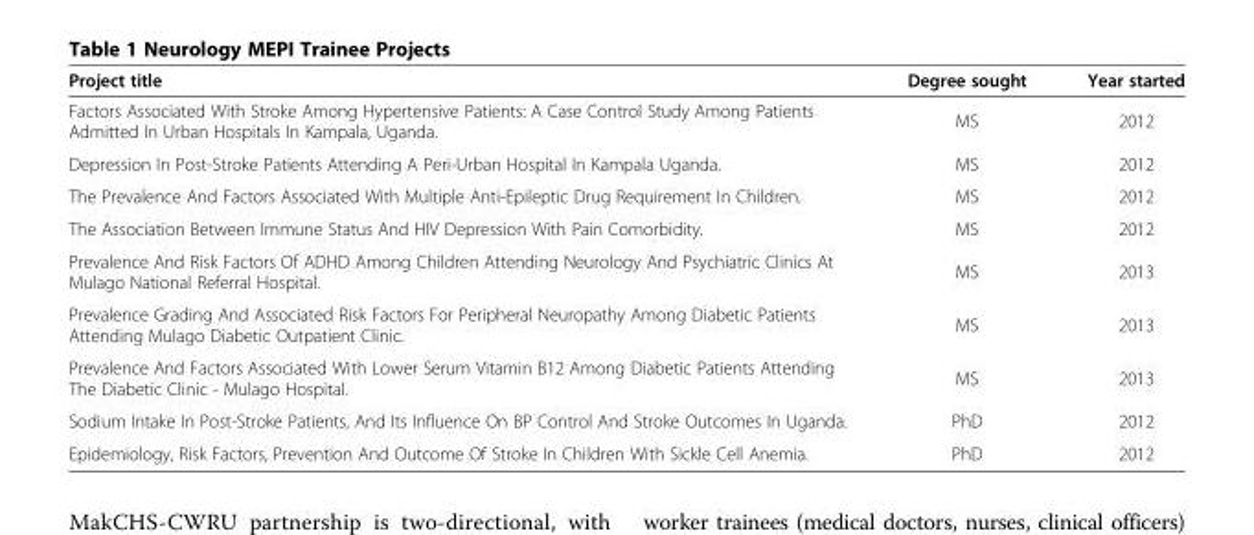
<table><thead><tr><td>Project title</td><td>Degree sought</td><td>Year started</td></tr></thead><tbody><tr><td>Factors Associated With Stroke Among Hypertensive Patients: A Case Control Study Among Patients Admitted In Urban Hospitals In Kampala, Uganda.</td><td>MS</td><td>2012</td></tr><tr><td>Depression In Post-Stroke Patients Attending A Peri-Urban Hospital In Kampala Uganda.</td><td>MS</td><td>2012</td></tr><tr><td>The Prevalence And Factors Associated With Multiple Anti-Epileptic Drug Requirement In Children.</td><td>MS</td><td>2012</td></tr><tr><td>The Association Between Immune Status And HIV Depression With Pain Comorbidity.</td><td>MS</td><td>2012</td></tr><tr><td>Prevalence And Risk Factors Of ADHD Among Children Attending Neurology And Psychiatric Clinics At Mulago National Referral Hospital.</td><td>MS</td><td>2013</td></tr><tr><td>Prevalence Grading And Associated Risk Factors For Peripheral Neuropathy Among Diabetic Patients Attending Mulago Diabetic Outpatient Clinic.</td><td>MS</td><td>2013</td></tr><tr><td>Prevalence And Factors Associated With Lower Serum Vitamin B12 Among Diabetic Patients Attending The Diabetic Clinic - Mulago Hospital.</td><td>MS</td><td>2013</td></tr><tr><td>Sodium Intake In Post-Stroke Patients, And Its Influence On BP Control And Stroke Outcomes In Uganda.</td><td>PhD</td><td>2012</td></tr><tr><td>Epidemiology, Risk Factors, Prevention And Outcome Of Stroke In Children With Sickle Cell Anemia.</td><td>PhD</td><td>2012</td></tr></tbody></table>